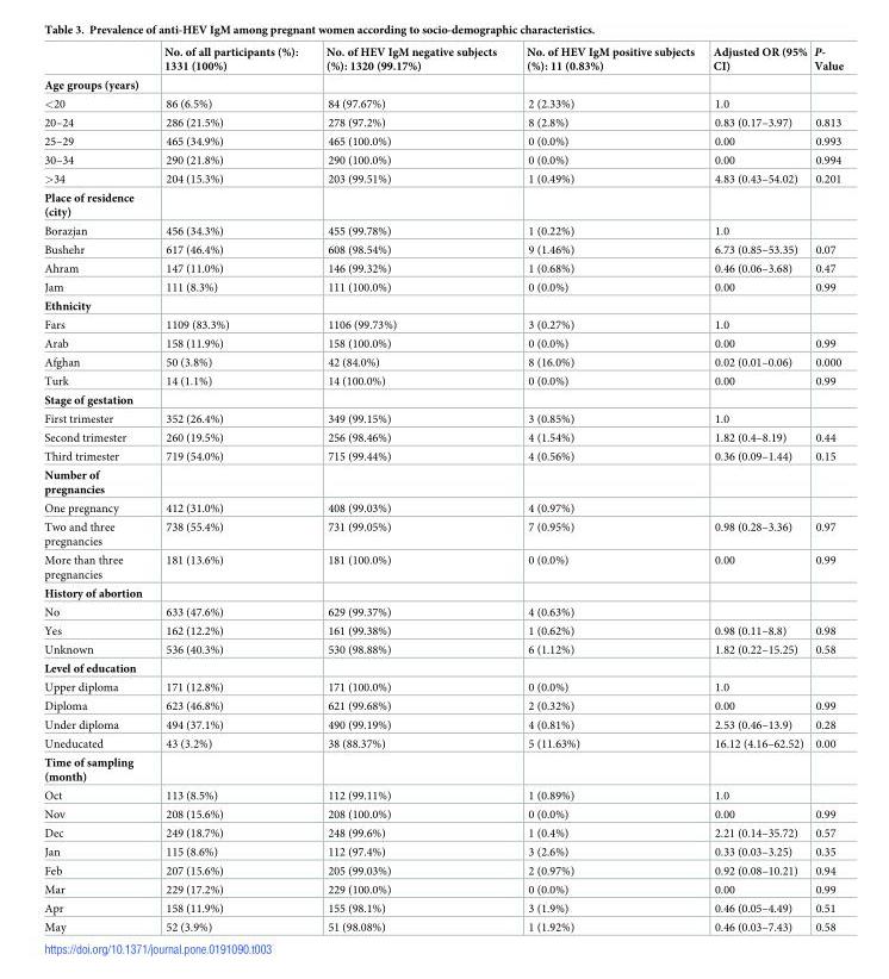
<table><thead><tr><td></td><td>No. of all participants (%): 1331 (100%)</td><td>No. of HEV IgM negative subjects (%): 1320 (99.17%)</td><td>No. of HEV IgM positive subjects (%): 11 (0.83%)</td><td>Adjusted OR (95% CI)</td><td>P- Value</td></tr></thead><tbody><tr><td colspan="6">Age groups (years)</td></tr><tr><td>&lt;20</td><td>86 (6.5%)</td><td>84 (97.67%)</td><td>2 (2.33%)</td><td>1.0</td><td></td></tr><tr><td>20–24</td><td>286 (21.5%)</td><td>278 (97.2%)</td><td>8 (2.8%)</td><td>0.83 (0.17–3.97)</td><td>0.813</td></tr><tr><td>25–29</td><td>465 (34.9%)</td><td>465 (100.0%)</td><td>0 (0.0%)</td><td>0.00</td><td>0.993</td></tr><tr><td>30–34</td><td>290 (21.8%)</td><td>290 (100.0%)</td><td>0 (0.0%)</td><td>0.00</td><td>0.994</td></tr><tr><td>&gt;34</td><td>204 (15.3%)</td><td>203 (99.51%)</td><td>1 (0.49%)</td><td>4.83 (0.43–54.02)</td><td>0.201</td></tr><tr><td colspan="6">Place of residence (city)</td></tr><tr><td>Borazjan</td><td>456 (34.3%)</td><td>455 (99.78%)</td><td>1 (0.22%)</td><td>1.0</td><td></td></tr><tr><td>Bushehr</td><td>617 (46.4%)</td><td>608 (98.54%)</td><td>9 (1.46%)</td><td>6.73 (0.85–53.35)</td><td>0.07</td></tr><tr><td>Ahram</td><td>147 (11.0%)</td><td>146 (99.32%)</td><td>1 (0.68%)</td><td>0.46 (0.06–3.68)</td><td>0.47</td></tr><tr><td>Jam</td><td>111 (8.3%)</td><td>111 (100.0%)</td><td>0 (0.0%)</td><td>0.00</td><td>0.99</td></tr><tr><td colspan="6">Ethnicity</td></tr><tr><td>Fars</td><td>1109 (83.3%)</td><td>1106 (99.73%)</td><td>3 (0.27%)</td><td>1.0</td><td></td></tr><tr><td>Arab</td><td>158 (11.9%)</td><td>158 (100.0%)</td><td>0 (0.0%)</td><td>0.00</td><td>0.99</td></tr><tr><td>Afghan</td><td>50 (3.8%)</td><td>42 (84.0%)</td><td>8 (16.0%)</td><td>0.02 (0.01–0.06)</td><td>0.000</td></tr><tr><td>Turk</td><td>14 (1.1%)</td><td>14 (100.0%)</td><td>0 (0.0%)</td><td>0.00</td><td>0.99</td></tr><tr><td colspan="6">Stage of gestation</td></tr><tr><td>First trimester</td><td>352 (26.4%)</td><td>349 (99.15%)</td><td>3 (0.85%)</td><td>1.0</td><td></td></tr><tr><td>Second trimester</td><td>260 (19.5%)</td><td>256 (98.46%)</td><td>4 (1.54%)</td><td>1.82 (0.4–8.19)</td><td>0.44</td></tr><tr><td>Third trimester</td><td>719 (54.0%)</td><td>715 (99.44%)</td><td>4 (0.56%)</td><td>0.36 (0.09–1.44)</td><td>0.15</td></tr><tr><td colspan="6">Number of pregnancies</td></tr><tr><td>One pregnancy</td><td>412 (31.0%)</td><td>408 (99.03%)</td><td>4 (0.97%)</td><td></td><td></td></tr><tr><td>Two and three pregnancies</td><td>738 (55.4%)</td><td>731 (99.05%)</td><td>7 (0.95%)</td><td>0.98 (0.28–3.36)</td><td>0.97</td></tr><tr><td>More than three pregnancies</td><td>181 (13.6%)</td><td>181 (100.0%)</td><td>0 (0.0%)</td><td>0.00</td><td>0.99</td></tr><tr><td colspan="6">History of abortion</td></tr><tr><td>No</td><td>633 (47.6%)</td><td>629 (99.37%)</td><td>4 (0.63%)</td><td></td><td></td></tr><tr><td>Yes</td><td>162 (12.2%)</td><td>161 (99.38%)</td><td>1 (0.62%)</td><td>0.98 (0.11–8.8)</td><td>0.98</td></tr><tr><td>Unknown</td><td>536 (40.3%)</td><td>530 (98.88%)</td><td>6 (1.12%)</td><td>1.82 (0.22–15.25)</td><td>0.58</td></tr><tr><td colspan="6">Level of education</td></tr><tr><td>Upper diploma</td><td>171 (12.8%)</td><td>171 (100.0%)</td><td>0 (0.0%)</td><td>1.0</td><td></td></tr><tr><td>Diploma</td><td>623 (46.8%)</td><td>621 (99.68%)</td><td>2 (0.32%)</td><td>0.00</td><td>0.99</td></tr><tr><td>Under diploma</td><td>494 (37.1%)</td><td>490 (99.19%)</td><td>4 (0.81%)</td><td>2.53 (0.46–13.9)</td><td>0.28</td></tr><tr><td>Uneducated</td><td>43 (3.2%)</td><td>38 (88.37%)</td><td>5 (11.63%)</td><td>16.12 (4.16–62.52)</td><td>0.00</td></tr><tr><td colspan="6">Time of sampling (month)</td></tr><tr><td>Oct</td><td>113 (8.5%)</td><td>112 (99.11%)</td><td>1 (0.89%)</td><td>1.0</td><td></td></tr><tr><td>Nov</td><td>208 (15.6%)</td><td>208 (100.0%)</td><td>0 (0.0%)</td><td>0.00</td><td>0.99</td></tr><tr><td>Dec</td><td>249 (18.7%)</td><td>248 (99.6%)</td><td>1 (0.4%)</td><td>2.21 (0.14–35.72)</td><td>0.57</td></tr><tr><td>Jan</td><td>115 (8.6%)</td><td>112 (97.4%)</td><td>3 (2.6%)</td><td>0.33 (0.03–3.25)</td><td>0.35</td></tr><tr><td>Feb</td><td>207 (15.6%)</td><td>205 (99.03%)</td><td>2 (0.97%)</td><td>0.92 (0.08–10.21)</td><td>0.94</td></tr><tr><td>Mar</td><td>229 (17.2%)</td><td>229 (100.0%)</td><td>0 (0.0%)</td><td>0.00</td><td>0.99</td></tr><tr><td>Apr</td><td>158 (11.9%)</td><td>155 (98.1%)</td><td>3 (1.9%)</td><td>0.46 (0.05–4.49)</td><td>0.51</td></tr><tr><td>May</td><td>52 (3.9%)</td><td>51 (98.08%)</td><td>1 (1.92%)</td><td>0.46 (0.03–7.43)</td><td>0.58</td></tr></tbody></table>